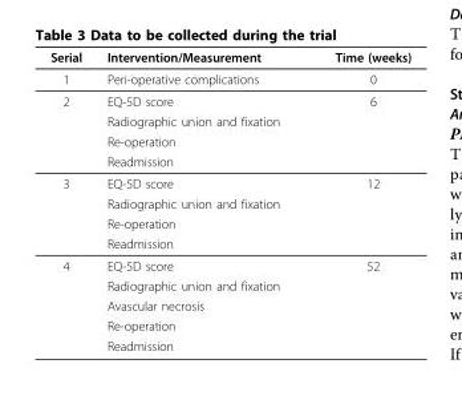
<table><thead><tr><td>Serial</td><td>Intervention/Measurement</td><td>Time (weeks)</td></tr></thead><tbody><tr><td>1</td><td>Peri-operative complications</td><td>0</td></tr><tr><td rowspan="4">2</td><td>EQ-5D score</td><td>6</td></tr><tr><td>Radiographic union and fixation</td><td></td></tr><tr><td>Re-operation</td><td></td></tr><tr><td>Readmission</td><td></td></tr><tr><td rowspan="4">3</td><td>EQ-5D score</td><td>12</td></tr><tr><td>Radiographic union and fixation</td><td></td></tr><tr><td>Re-operation</td><td></td></tr><tr><td>Readmission</td><td></td></tr><tr><td rowspan="5">4</td><td>EQ-5D score</td><td>52</td></tr><tr><td>Radiographic union and fixation</td><td></td></tr><tr><td>Avascular necrosis</td><td></td></tr><tr><td>Re-operation</td><td></td></tr><tr><td>Readmission</td><td></td></tr></tbody></table>